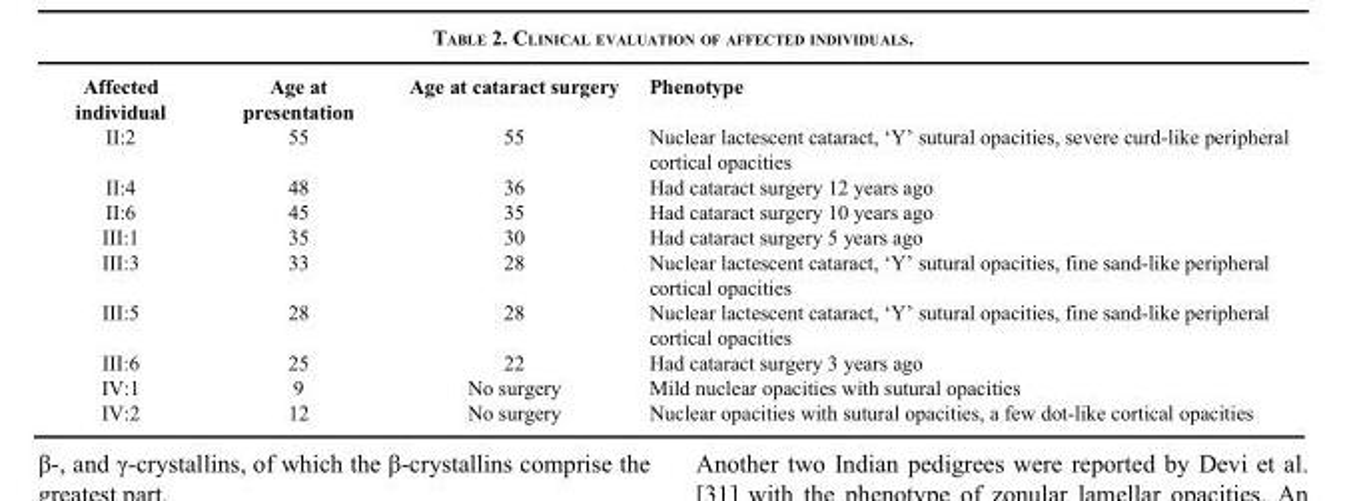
<table><thead><tr><td>Affected individual</td><td>Age at presentation</td><td>Age at cataract surgery</td><td>Phenotype</td></tr></thead><tbody><tr><td>II:2</td><td>55</td><td>55</td><td>Nuclear lactescent cataract, ‘Y’ sutural opacities, severe curd-like peripheral cortical opacities</td></tr><tr><td>II:4</td><td>48</td><td>36</td><td>Had cataract surgery 12 years ago</td></tr><tr><td>II:6</td><td>45</td><td>35</td><td>Had cataract surgery 10 years ago</td></tr><tr><td>III:1</td><td>35</td><td>30</td><td>Had cataract surgery 5 years ago</td></tr><tr><td>III:3</td><td>33</td><td>28</td><td>Nuclear lactescent cataract, ‘Y’ sutural opacities, fine sand-like peripheral cortical opacities</td></tr><tr><td>III:5</td><td>28</td><td>28</td><td>Nuclear lactescent cataract, ‘Y’ sutural opacities, fine sand-like peripheral cortical opacities</td></tr><tr><td>III:6</td><td>25</td><td>22</td><td>Had cataract surgery 3 years ago</td></tr><tr><td>IV:1</td><td>9</td><td>No surgery</td><td>Mild nuclear opacities with sutural opacities</td></tr><tr><td>IV:2</td><td>12</td><td>No surgery</td><td>Nuclear opacities with sutural opacities, a few dot-like cortical opacities</td></tr></tbody></table>